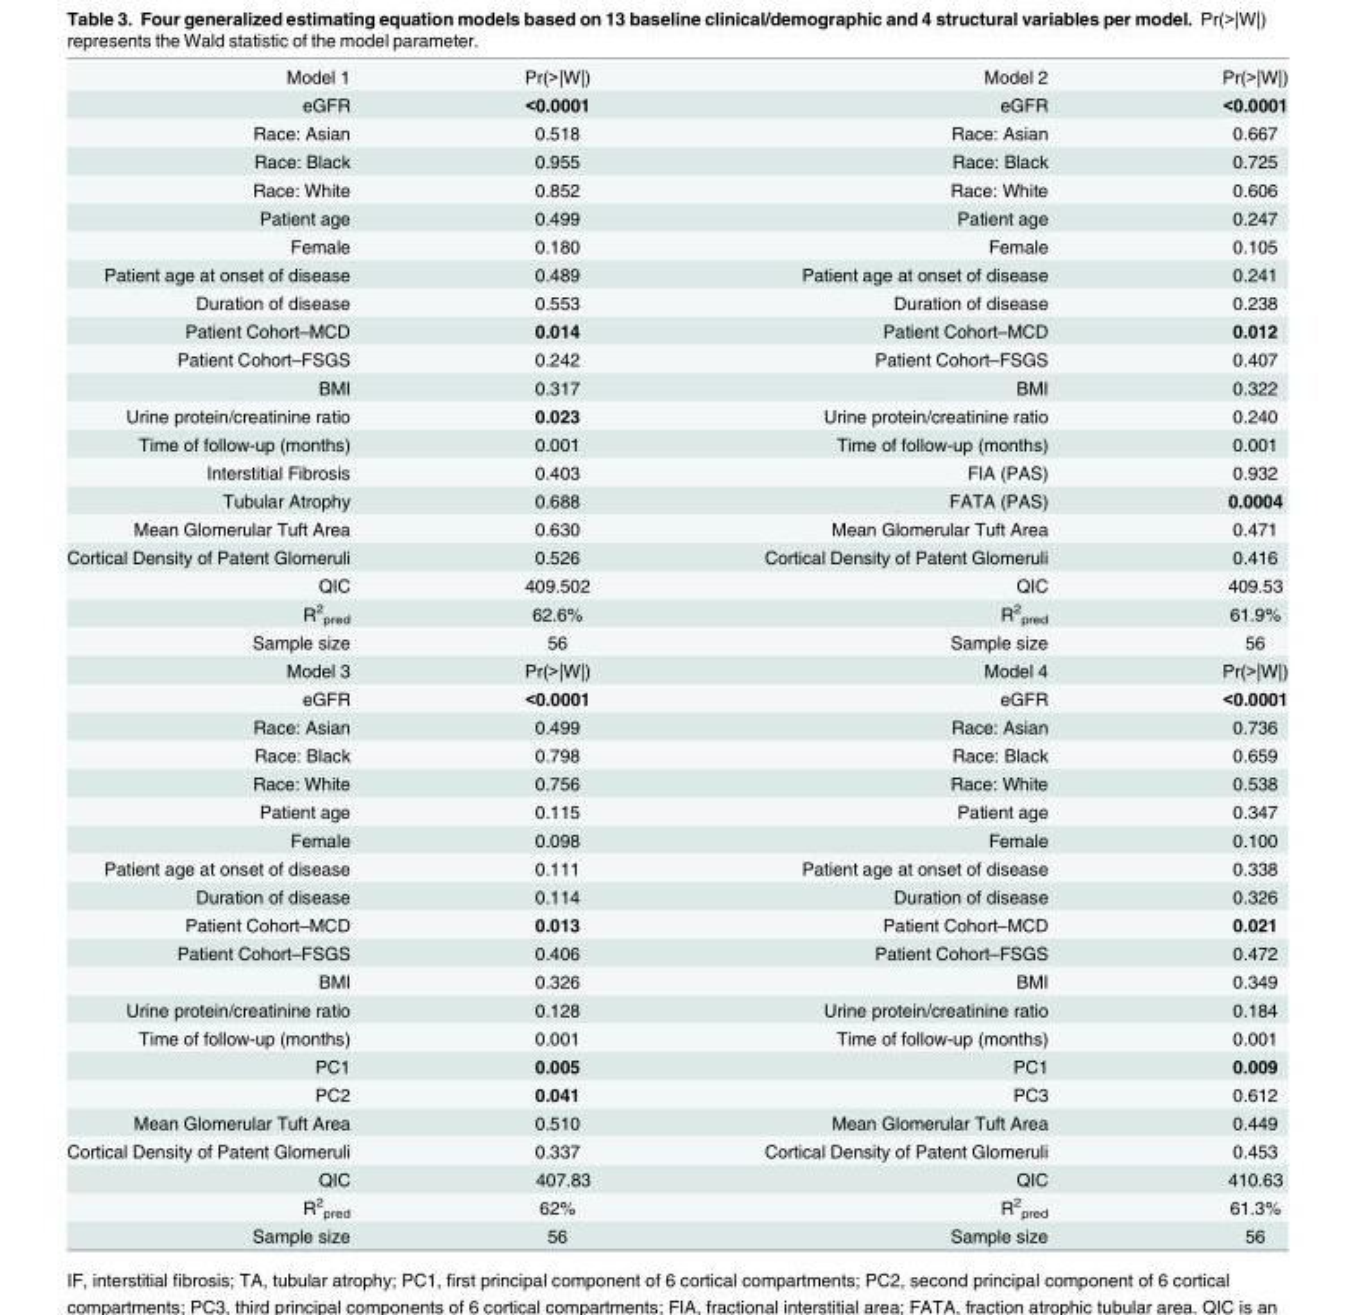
<table><tbody><tr><td>Model 1</td><td>Pr(&gt;|W|)</td><td>Model 2</td><td>Pr(&gt;|W|)</td></tr><tr><td>eGFR</td><td>&lt;0.0001</td><td>eGFR</td><td>&lt;0.0001</td></tr><tr><td>Race: Asian</td><td>0.518</td><td>Race: Asian</td><td>0.667</td></tr><tr><td>Race: Black</td><td>0.955</td><td>Race: Black</td><td>0.725</td></tr><tr><td>Race: White</td><td>0.852</td><td>Race: White</td><td>0.606</td></tr><tr><td>Patient age</td><td>0.499</td><td>Patient age</td><td>0.247</td></tr><tr><td>Female</td><td>0.180</td><td>Female</td><td>0.105</td></tr><tr><td>Patient age at onset of disease</td><td>0.489</td><td>Patient age at onset of disease</td><td>0.241</td></tr><tr><td>Duration of disease</td><td>0.553</td><td>Duration of disease</td><td>0.238</td></tr><tr><td>Patient Cohort–MCD</td><td>0.014</td><td>Patient Cohort–MCD</td><td>0.012</td></tr><tr><td>Patient Cohort–FSGS</td><td>0.242</td><td>Patient Cohort–FSGS</td><td>0.407</td></tr><tr><td>BMI</td><td>0.317</td><td>BMI</td><td>0.322</td></tr><tr><td>Urine protein/creatinine ratio</td><td>0.023</td><td>Urine protein/creatinine ratio</td><td>0.240</td></tr><tr><td>Time of follow-up (months)</td><td>0.001</td><td>Time of follow-up (months)</td><td>0.001</td></tr><tr><td>Interstitial Fibrosis</td><td>0.403</td><td>FIA (PAS)</td><td>0.932</td></tr><tr><td>Tubular Atrophy</td><td>0.688</td><td>FATA (PAS)</td><td>0.0004</td></tr><tr><td>Mean Glomerular Tuft Area</td><td>0.630</td><td>Mean Glomerular Tuft Area</td><td>0.471</td></tr><tr><td>Cortical Density of Patent Glomeruli</td><td>0.526</td><td>Cortical Density of Patent Glomeruli</td><td>0.416</td></tr><tr><td>QIC</td><td>409.502</td><td>QIC</td><td>409.53</td></tr><tr><td>R<sup>2</sup> <sub>pred</sub></td><td>62.6%</td><td>R<sup>2</sup> <sub>pred</sub></td><td>61.9%</td></tr><tr><td>Sample size</td><td>56</td><td>Sample size</td><td>56</td></tr><tr><td>Model 3</td><td>Pr(&gt;|W|)</td><td>Model 4</td><td>Pr(&gt;|W|)</td></tr><tr><td>eGFR</td><td>&lt;0.0001</td><td>eGFR</td><td>&lt;0.0001</td></tr><tr><td>Race: Asian</td><td>0.499</td><td>Race: Asian</td><td>0.736</td></tr><tr><td>Race: Black</td><td>0.798</td><td>Race: Black</td><td>0.659</td></tr><tr><td>Race: White</td><td>0.756</td><td>Race: White</td><td>0.538</td></tr><tr><td>Patient age</td><td>0.115</td><td>Patient age</td><td>0.347</td></tr><tr><td>Female</td><td>0.098</td><td>Female</td><td>0.100</td></tr><tr><td>Patient age at onset of disease</td><td>0.111</td><td>Patient age at onset of disease</td><td>0.338</td></tr><tr><td>Duration of disease</td><td>0.114</td><td>Duration of disease</td><td>0.326</td></tr><tr><td>Patient Cohort–MCD</td><td>0.013</td><td>Patient Cohort–MCD</td><td>0.021</td></tr><tr><td>Patient Cohort–FSGS</td><td>0.406</td><td>Patient Cohort–FSGS</td><td>0.472</td></tr><tr><td>BMI</td><td>0.326</td><td>BMI</td><td>0.349</td></tr><tr><td>Urine protein/creatinine ratio</td><td>0.128</td><td>Urine protein/creatinine ratio</td><td>0.184</td></tr><tr><td>Time of follow-up (months)</td><td>0.001</td><td>Time of follow-up (months)</td><td>0.001</td></tr><tr><td>PC1</td><td>0.005</td><td>PC1</td><td>0.009</td></tr><tr><td>PC2</td><td>0.041</td><td>PC3</td><td>0.612</td></tr><tr><td>Mean Glomerular Tuft Area</td><td>0.510</td><td>Mean Glomerular Tuft Area</td><td>0.449</td></tr><tr><td>Cortical Density of Patent Glomeruli</td><td>0.337</td><td>Cortical Density of Patent Glomeruli</td><td>0.453</td></tr><tr><td>QIC</td><td>407.83</td><td>QIC</td><td>410.63</td></tr><tr><td>R<sup>2</sup> <sub>pred</sub></td><td>62%</td><td>R<sup>2</sup> <sub>pred</sub></td><td>61.3%</td></tr><tr><td>Sample size</td><td>56</td><td>Sample size</td><td>56</td></tr></tbody></table>